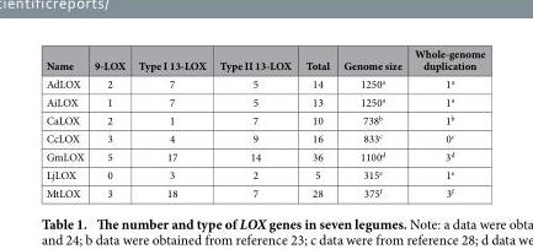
<table><thead><tr><td>Name</td><td>9-LOX</td><td>Type I 13-LOX</td><td>Type II 13-LOX</td><td>Total</td><td>Genome size</td><td>Whole-genome duplication</td></tr></thead><tbody><tr><td>AdLOX</td><td>2</td><td>7</td><td>5</td><td>14</td><td>1250<sup>a</sup></td><td>1<sup>a</sup></td></tr><tr><td>AiLOX</td><td>1</td><td>7</td><td>5</td><td>13</td><td>1250<sup>a</sup></td><td>1<sup>a</sup></td></tr><tr><td>CaLOX</td><td>2</td><td>1</td><td>7</td><td>10</td><td>738<sup>b</sup></td><td>1<sup>b</sup></td></tr><tr><td>CcLOX</td><td>3</td><td>4</td><td>9</td><td>16</td><td>833<sup>c</sup></td><td>0<sup>c</sup></td></tr><tr><td>GmLOX</td><td>5</td><td>17</td><td>14</td><td>36</td><td>1100<sup>d</sup></td><td>3<sup>d</sup></td></tr><tr><td>LjLOX</td><td>0</td><td>3</td><td>2</td><td>5</td><td>315<sup>e</sup></td><td>1<sup>e</sup></td></tr><tr><td>MtLOX</td><td>3</td><td>18</td><td>7</td><td>28</td><td>375<sup>f</sup></td><td>3<sup>f</sup></td></tr></tbody></table>